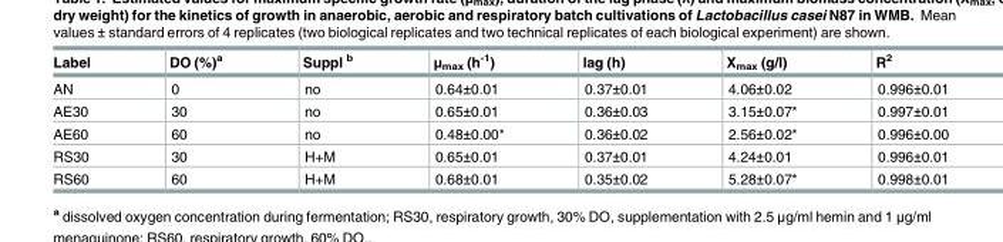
<table><thead><tr><td>Label</td><td>DO (%)<sup>a</sup></td><td>Suppl <sup>b</sup></td><td>μ<sub>max</sub> (h<sup>-1</sup>)</td><td>lag (h)</td><td>X<sub>max</sub> (g/l)</td><td>R<sup>2</sup></td></tr></thead><tbody><tr><td>AN</td><td>0</td><td>no</td><td>0.64±0.01</td><td>0.37±0.01</td><td>4.06±0.02</td><td>0.996±0.01</td></tr><tr><td>AE30</td><td>30</td><td>no</td><td>0.65±0.01</td><td>0.36±0.03</td><td>3.15±0.07*</td><td>0.997±0.01</td></tr><tr><td>AE60</td><td>60</td><td>no</td><td>0.48±0.00*</td><td>0.36±0.02</td><td>2.56±0.02*</td><td>0.996±0.00</td></tr><tr><td>RS30</td><td>30</td><td>H+M</td><td>0.65±0.01</td><td>0.37±0.01</td><td>4.24±0.01</td><td>0.996±0.01</td></tr><tr><td>RS60</td><td>60</td><td>H+M</td><td>0.68±0.01</td><td>0.35±0.02</td><td>5.28±0.07*</td><td>0.998±0.01</td></tr></tbody></table>